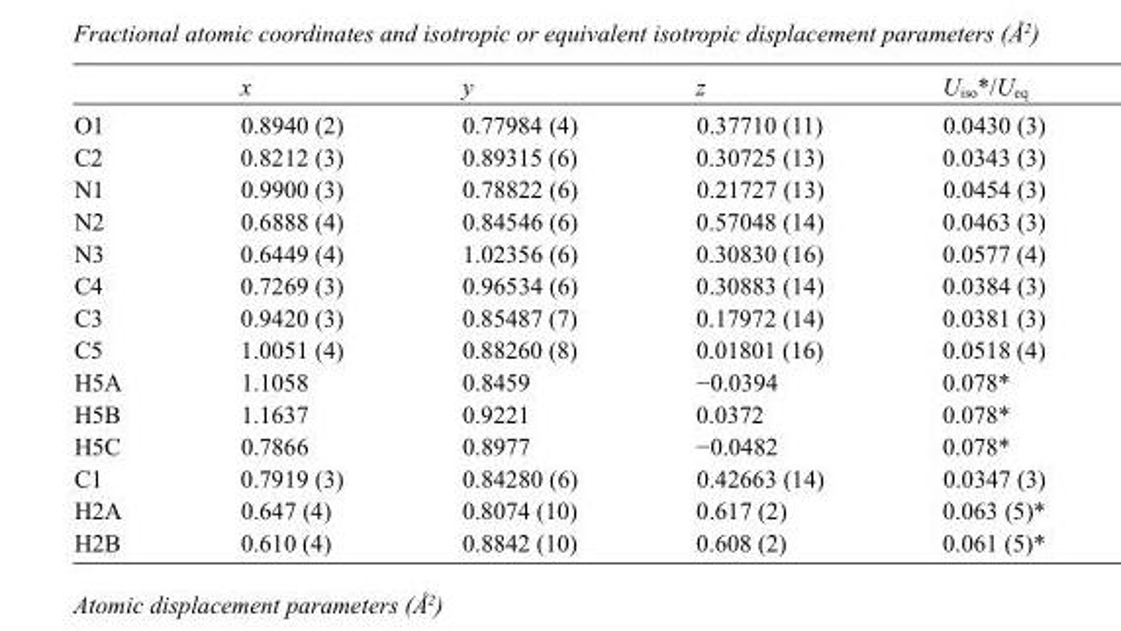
<table><thead><tr><td></td><td>x</td><td>y</td><td>z</td><td>U<sub>iso</sub>*/U<sub>eq</sub></td></tr></thead><tbody><tr><td>O1</td><td>0.8940 (2)</td><td>0.77984 (4)</td><td>0.37710 (11)</td><td>0.0430 (3)</td></tr><tr><td>C2</td><td>0.8212 (3)</td><td>0.89315 (6)</td><td>0.30725 (13)</td><td>0.0343 (3)</td></tr><tr><td>N1</td><td>0.9900 (3)</td><td>0.78822 (6)</td><td>0.21727 (13)</td><td>0.0454 (3)</td></tr><tr><td>N2</td><td>0.6888 (4)</td><td>0.84546 (6)</td><td>0.57048 (14)</td><td>0.0463 (3)</td></tr><tr><td>N3</td><td>0.6449 (4)</td><td>1.02356 (6)</td><td>0.30830 (16)</td><td>0.0577 (4)</td></tr><tr><td>C4</td><td>0.7269 (3)</td><td>0.96534 (6)</td><td>0.30883 (14)</td><td>0.0384 (3)</td></tr><tr><td>C3</td><td>0.9420 (3)</td><td>0.85487 (7)</td><td>0.17972 (14)</td><td>0.0381 (3)</td></tr><tr><td>C5</td><td>1.0051 (4)</td><td>0.88260 (8)</td><td>0.01801 (16)</td><td>0.0518 (4)</td></tr><tr><td>H5A</td><td>1.1058</td><td>0.8459</td><td>−0.0394</td><td>0.078*</td></tr><tr><td>H5B</td><td>1.1637</td><td>0.9221</td><td>0.0372</td><td>0.078*</td></tr><tr><td>H5C</td><td>0.7866</td><td>0.8977</td><td>−0.0482</td><td>0.078*</td></tr><tr><td>C1</td><td>0.7919 (3)</td><td>0.84280 (6)</td><td>0.42663 (14)</td><td>0.0347 (3)</td></tr><tr><td>H2A</td><td>0.647 (4)</td><td>0.8074 (10)</td><td>0.617 (2)</td><td>0.063 (5)*</td></tr><tr><td>H2B</td><td>0.610 (4)</td><td>0.8842 (10)</td><td>0.608 (2)</td><td>0.061 (5)*</td></tr></tbody></table>